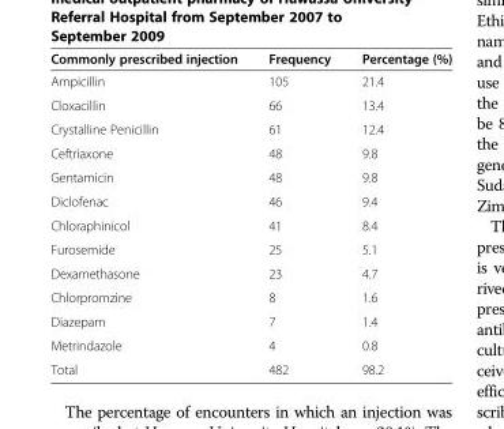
<table><thead><tr><td>Commonly prescribed injection</td><td>Frequency</td><td>Percentage (%)</td></tr></thead><tbody><tr><td>Ampicillin</td><td>105</td><td>21.4</td></tr><tr><td>Cloxacillin</td><td>66</td><td>13.4</td></tr><tr><td>Crystalline Penicillin</td><td>61</td><td>12.4</td></tr><tr><td>Ceftriaxone</td><td>48</td><td>9.8</td></tr><tr><td>Gentamicin</td><td>48</td><td>9.8</td></tr><tr><td>Diclofenac</td><td>46</td><td>9.4</td></tr><tr><td>Chloraphinicol</td><td>41</td><td>8.4</td></tr><tr><td>Furosemide</td><td>25</td><td>5.1</td></tr><tr><td>Dexamethasone</td><td>23</td><td>4.7</td></tr><tr><td>Chlorpromzine</td><td>8</td><td>1.6</td></tr><tr><td>Diazepam</td><td>7</td><td>1.4</td></tr><tr><td>Metrindazole</td><td>4</td><td>0.8</td></tr><tr><td>Total</td><td>482</td><td>98.2</td></tr></tbody></table>